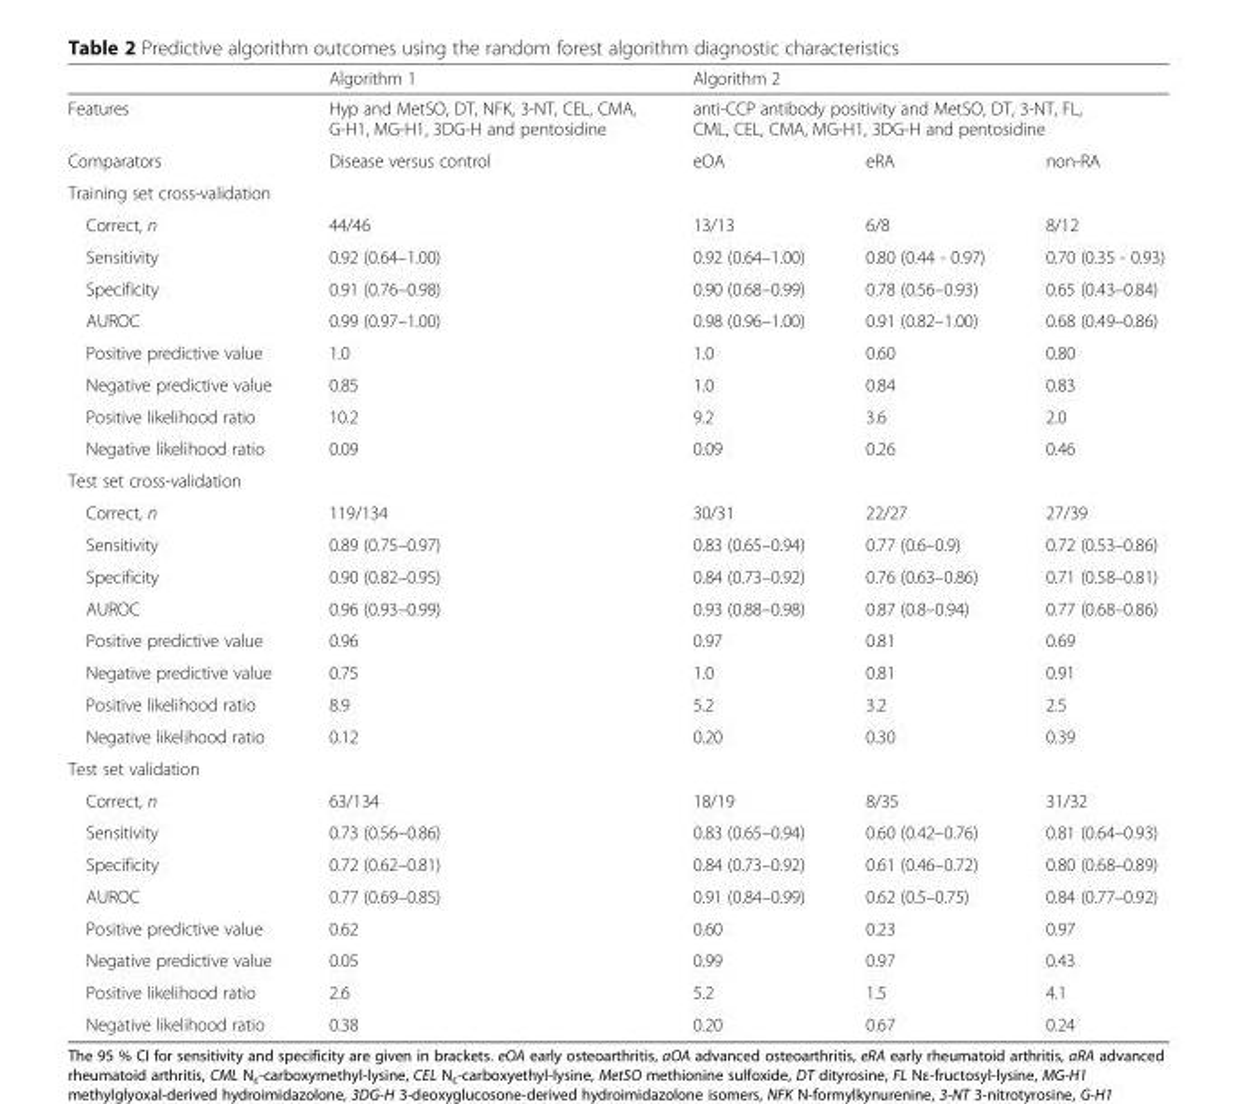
<table><thead><tr><td rowspan="3">Features Comparators</td><td rowspan="3">Algorithm 1 Hyp and MetSO, DT, NFK, 3-NT, CEL, CMA, G-H1, MG-H1, 3DG-H and pentosidine Disease versus control</td><td rowspan="2" colspan="3">Algorithm 2 anti-CCP antibody positivity and MetSO, DT, 3-NT, FL, CML, CEL, CMA, MG-H1, 3DG-H and pentosidine</td></tr><tr></tr><tr><td>eOA</td><td>eRA</td><td>non-RA</td></tr></thead><tbody><tr><td colspan="5">Training set cross-validation</td></tr><tr><td>Correct, n</td><td>44/46</td><td>13/13</td><td>6/8</td><td>8/12</td></tr><tr><td>Sensitivity</td><td>0.92 (0.64–1.00)</td><td>0.92 (0.64–1.00)</td><td>0.80 (0.44 - 0.97)</td><td>0.70 (0.35 - 0.93)</td></tr><tr><td>Specificity</td><td>0.91 (0.76–0.98)</td><td>0.90 (0.68–0.99)</td><td>0.78 (0.56–0.93)</td><td>0.65 (0.43–0.84)</td></tr><tr><td>AUROC</td><td>0.99 (0.97–1.00)</td><td>0.98 (0.96–1.00)</td><td>0.91 (0.82–1.00)</td><td>0.68 (0.49–0.86)</td></tr><tr><td>Positive predictive value</td><td>1.0</td><td>1.0</td><td>0.60</td><td>0.80</td></tr><tr><td>Negative predictive value</td><td>0.85</td><td>1.0</td><td>0.84</td><td>0.83</td></tr><tr><td>Positive likelihood ratio</td><td>10.2</td><td>9.2</td><td>3.6</td><td>2.0</td></tr><tr><td>Negative likelihood ratio</td><td>0.09</td><td>0.09</td><td>0.26</td><td>0.46</td></tr><tr><td colspan="5">Test set cross-validation</td></tr><tr><td>Correct, n</td><td>119/134</td><td>30/31</td><td>22/27</td><td>27/39</td></tr><tr><td>Sensitivity</td><td>0.89 (0.75–0.97)</td><td>0.83 (0.65–0.94)</td><td>0.77 (0.6–0.9)</td><td>0.72 (0.53–0.86)</td></tr><tr><td>Specificity</td><td>0.90 (0.82–0.95)</td><td>0.84 (0.73–0.92)</td><td>0.76 (0.63–0.86)</td><td>0.71 (0.58–0.81)</td></tr><tr><td>AUROC</td><td>0.96 (0.93–0.99)</td><td>0.93 (0.88–0.98)</td><td>0.87 (0.8–0.94)</td><td>0.77 (0.68–0.86)</td></tr><tr><td>Positive predictive value</td><td>0.96</td><td>0.97</td><td>0.81</td><td>0.69</td></tr><tr><td>Negative predictive value</td><td>0.75</td><td>1.0</td><td>0.81</td><td>0.91</td></tr><tr><td>Positive likelihood ratio</td><td>8.9</td><td>5.2</td><td>3.2</td><td>2.5</td></tr><tr><td>Negative likelihood ratio</td><td>0.12</td><td>0.20</td><td>0.30</td><td>0.39</td></tr><tr><td colspan="5">Test set validation</td></tr><tr><td>Correct, n</td><td>63/134</td><td>18/19</td><td>8/35</td><td>31/32</td></tr><tr><td>Sensitivity</td><td>0.73 (0.56–0.86)</td><td>0.83 (0.65–0.94)</td><td>0.60 (0.42–0.76)</td><td>0.81 (0.64–0.93)</td></tr><tr><td>Specificity</td><td>0.72 (0.62–0.81)</td><td>0.84 (0.73–0.92)</td><td>0.61 (0.46–0.72)</td><td>0.80 (0.68–0.89)</td></tr><tr><td>AUROC</td><td>0.77 (0.69–0.85)</td><td>0.91 (0.84–0.99)</td><td>0.62 (0.5–0.75)</td><td>0.84 (0.77–0.92)</td></tr><tr><td>Positive predictive value</td><td>0.62</td><td>0.60</td><td>0.23</td><td>0.97</td></tr><tr><td>Negative predictive value</td><td>0.05</td><td>0.99</td><td>0.97</td><td>0.43</td></tr><tr><td>Positive likelihood ratio</td><td>2.6</td><td>5.2</td><td>1.5</td><td>4.1</td></tr><tr><td>Negative likelihood ratio</td><td>0.38</td><td>0.20</td><td>0.67</td><td>0.24</td></tr></tbody></table>